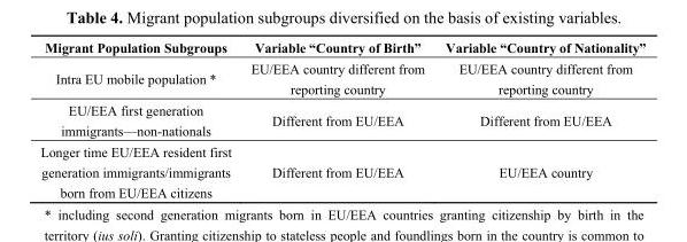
<table><thead><tr><td>Migrant Population Subgroups</td><td>Variable “Country of Birth”</td><td>Variable “Country of Nationality”</td></tr></thead><tbody><tr><td>Intra EU mobile population *</td><td>EU/EEA country different from reporting country</td><td>EU/EEA country different from reporting country</td></tr><tr><td>EU/EEA first generation immigrants—non-nationals</td><td>Different from EU/EEA</td><td>Different from EU/EEA</td></tr><tr><td>Longer time EU/EEA resident first generation immigrants/immigrants born from EU/EEA citizens</td><td>Different from EU/EEA</td><td>EU/EEA country</td></tr></tbody></table>